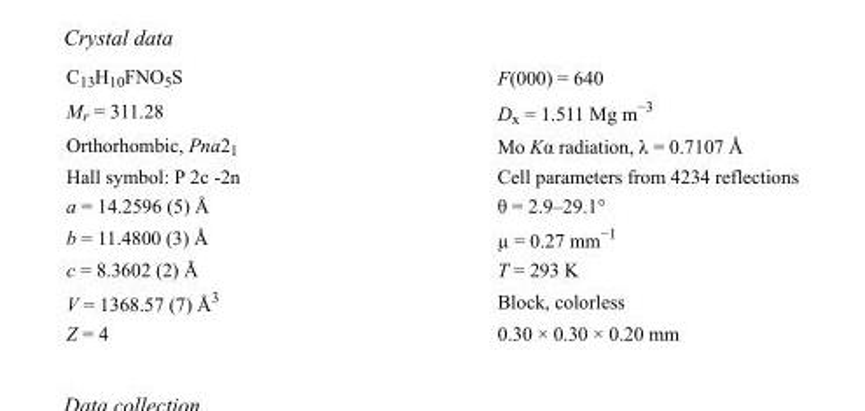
<table><tbody><tr><td>C<sub>13</sub>H<sub>10</sub>FNO<sub>5</sub>S</td><td>F(000) = 640</td></tr><tr><td>M<sub>r</sub> = 311.28</td><td>D<sub>x</sub> = 1.511 Mg m<sup>−3</sup></td></tr><tr><td>Orthorhombic, Pna2<sub>1</sub></td><td>Mo Kα radiation, λ = 0.7107 Å</td></tr><tr><td>Hall symbol: P 2c -2n</td><td>Cell parameters from 4234 reflections</td></tr><tr><td>a = 14.2596 (5) Å</td><td>θ = 2.9–29.1°</td></tr><tr><td>b = 11.4800 (3) Å</td><td>µ = 0.27 mm<sup>−1</sup></td></tr><tr><td>c = 8.3602 (2) Å</td><td>T = 293 K</td></tr><tr><td>V = 1368.57 (7) Å<sup>3</sup></td><td>Block, colorless</td></tr><tr><td>Z = 4</td><td>0.30 × 0.30 × 0.20 mm</td></tr></tbody></table>